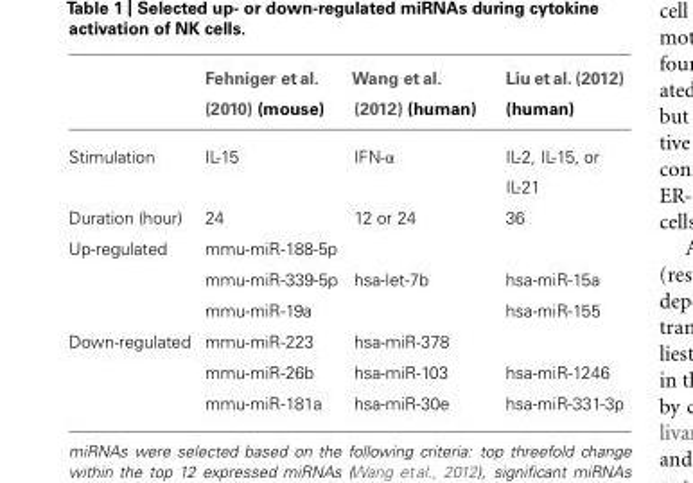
<table><thead><tr><td></td><td>Fehniger et al. (2010) (mouse)</td><td>Wang et al. (2012) (human)</td><td>Liu et al. (2012) (human)</td></tr></thead><tbody><tr><td>Stimulation</td><td>IL-15</td><td>IFN-α</td><td>IL-2, IL-15, or IL-21</td></tr><tr><td>Duration (hour)</td><td>24</td><td>12 or 24</td><td>36</td></tr><tr><td rowspan="3">Up-regulated</td><td>mmu-miR-188-5p</td><td></td><td></td></tr><tr><td>mmu-miR-339-5p</td><td>hsa-let-7b</td><td>hsa-miR-15a</td></tr><tr><td>mmu-miR-19a</td><td></td><td>hsa-miR-155</td></tr><tr><td rowspan="3">Down-regulated</td><td>mmu-miR-223</td><td>hsa-miR-378</td><td></td></tr><tr><td>mmu-miR-26b</td><td>hsa-miR-103</td><td>hsa-miR-1246</td></tr><tr><td>mmu-miR-181a</td><td>hsa-miR-30e</td><td>hsa-miR-331-3p</td></tr></tbody></table>